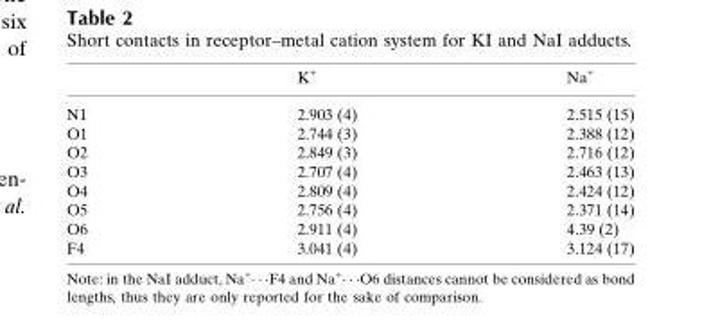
<table><thead><tr><td></td><td>K<sup>+</sup></td><td>Na<sup>+</sup></td></tr></thead><tbody><tr><td>N1</td><td>2.903 (4)</td><td>2.515 (15)</td></tr><tr><td>O1</td><td>2.744 (3)</td><td>2.388 (12)</td></tr><tr><td>O2</td><td>2.849 (3)</td><td>2.716 (12)</td></tr><tr><td>O3</td><td>2.707 (4)</td><td>2.463 (13)</td></tr><tr><td>O4</td><td>2.809 (4)</td><td>2.424 (12)</td></tr><tr><td>O5</td><td>2.756 (4)</td><td>2.371 (14)</td></tr><tr><td>O6</td><td>2.911 (4)</td><td>4.39 (2)</td></tr><tr><td>F4</td><td>3.041 (4)</td><td>3.124 (17)</td></tr></tbody></table>